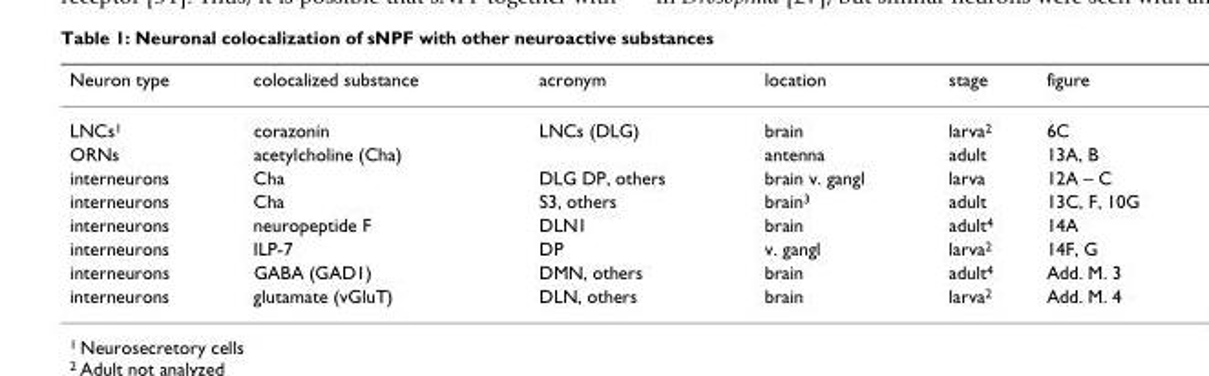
<table><thead><tr><td>Neuron type</td><td>colocalized substance</td><td>acronym</td><td>location</td><td>stage</td><td>figure</td></tr></thead><tbody><tr><td>LNCs<sup>1</sup></td><td>corazonin</td><td>LNCs (DLG)</td><td>brain</td><td>larva<sup>2</sup></td><td>6C</td></tr><tr><td>ORNs</td><td>acetylcholine (Cha)</td><td></td><td>antenna</td><td>adult</td><td>13A, B</td></tr><tr><td>interneurons</td><td>Cha</td><td>DLG DP, others</td><td>brain v. gangl</td><td>larva</td><td>12A – C</td></tr><tr><td>interneurons</td><td>Cha</td><td>S3, others</td><td>brain<sup>3</sup></td><td>adult</td><td>13C, F, 10G</td></tr><tr><td>interneurons</td><td>neuropeptide F</td><td>DLN1</td><td>brain</td><td>adult<sup>4</sup></td><td>14A</td></tr><tr><td>interneurons</td><td>ILP-7</td><td>DP</td><td>v. gangl</td><td>larva<sup>2</sup></td><td>14F, G</td></tr><tr><td>interneurons</td><td>GABA (GAD1)</td><td>DMN, others</td><td>brain</td><td>adult<sup>4</sup></td><td>Add. M. 3</td></tr><tr><td>interneurons</td><td>glutamate (vGluT)</td><td>DLN, others</td><td>brain</td><td>larva<sup>2</sup></td><td>Add. M. 4</td></tr></tbody></table>